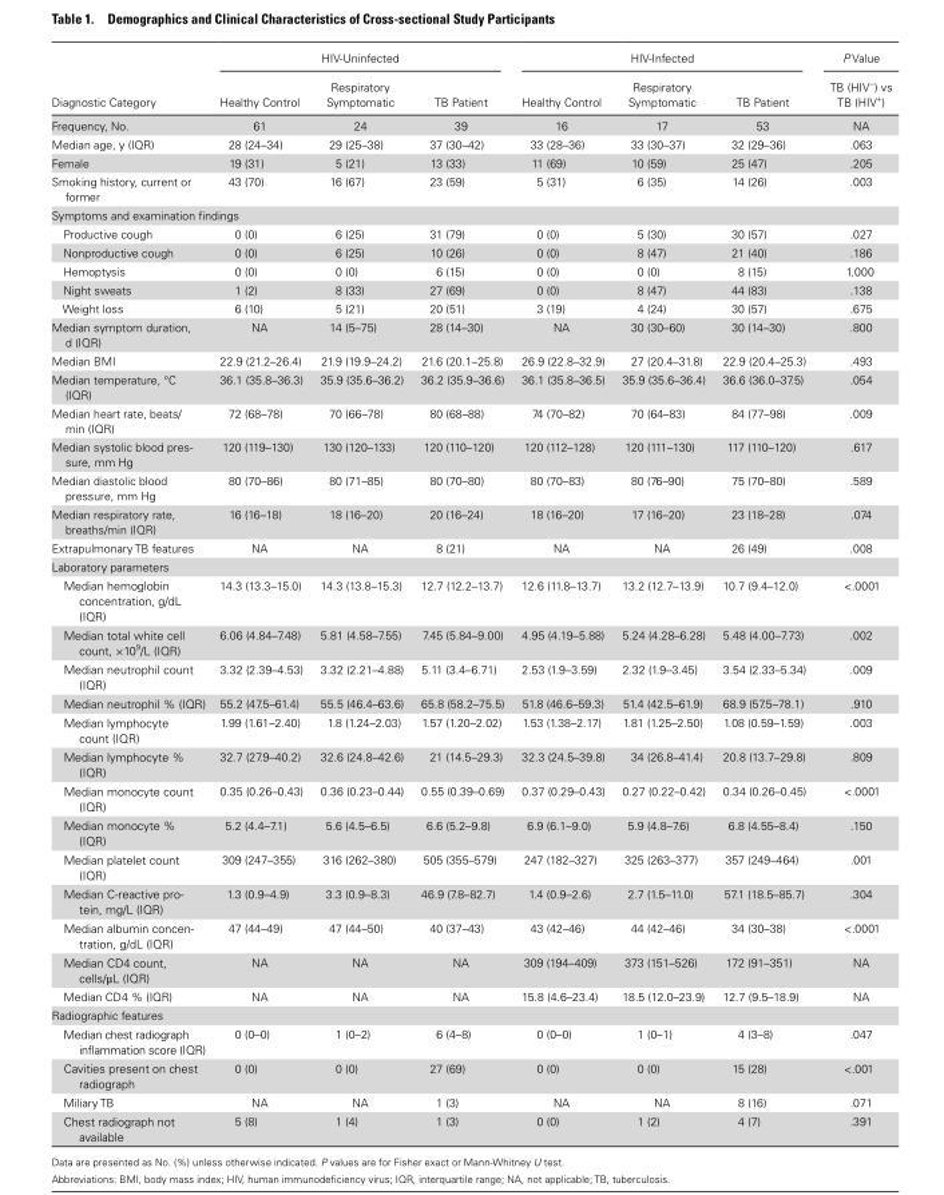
<table><thead><tr><td rowspan="2">Diagnostic Category</td><td colspan="3">HIV-Uninfected</td><td colspan="3">HIV-Infected</td><td rowspan="2">P Value TB (HIV<sup>−</sup>) vs TB (HIV<sup>+</sup>)</td></tr><tr><td>Healthy Control</td><td>Respiratory Symptomatic</td><td>TB Patient</td><td>Healthy Control</td><td>Respiratory Symptomatic</td><td>TB Patient</td></tr></thead><tbody><tr><td>Frequency, No.</td><td>61</td><td>24</td><td>39</td><td>16</td><td>17</td><td>53</td><td>NA</td></tr><tr><td>Median age, y (IQR)</td><td>28 (24–34)</td><td>29 (25–38)</td><td>37 (30–42)</td><td>33 (28–36)</td><td>33 (30–37)</td><td>32 (29–36)</td><td>.063</td></tr><tr><td>Female</td><td>19 (31)</td><td>5 (21)</td><td>13 (33)</td><td>11 (69)</td><td>10 (59)</td><td>25 (47)</td><td>.205</td></tr><tr><td>Smoking history, current or former</td><td>43 (70)</td><td>16 (67)</td><td>23 (59)</td><td>5 (31)</td><td>6 (35)</td><td>14 (26)</td><td>.003</td></tr><tr><td colspan="8">Symptoms and examination findings</td></tr><tr><td>Productive cough</td><td>0 (0)</td><td>6 (25)</td><td>31 (79)</td><td>0 (0)</td><td>5 (30)</td><td>30 (57)</td><td>.027</td></tr><tr><td>Nonproductive cough</td><td>0 (0)</td><td>6 (25)</td><td>10 (26)</td><td>0 (0)</td><td>8 (47)</td><td>21 (40)</td><td>.186</td></tr><tr><td>Hemoptysis</td><td>0 (0)</td><td>0 (0)</td><td>6 (15)</td><td>0 (0)</td><td>0 (0)</td><td>8 (15)</td><td>1.000</td></tr><tr><td>Night sweats</td><td>1 (2)</td><td>8 (33)</td><td>27 (69)</td><td>0 (0)</td><td>8 (47)</td><td>44 (83)</td><td>.138</td></tr><tr><td>Weight loss</td><td>6 (10)</td><td>5 (21)</td><td>20 (51)</td><td>3 (19)</td><td>4 (24)</td><td>30 (57)</td><td>.675</td></tr><tr><td>Median symptom duration, d (IQR)</td><td>NA</td><td>14 (5–75)</td><td>28 (14–30)</td><td>NA</td><td>30 (30–60)</td><td>30 (14–30)</td><td>.800</td></tr><tr><td>Median BMI</td><td>22.9 (21.2–26.4)</td><td>21.9 (19.9–24.2)</td><td>21.6 (20.1–25.8)</td><td>26.9 (22.8–32.9)</td><td>27 (20.4–31.8)</td><td>22.9 (20.4–25.3)</td><td>.493</td></tr><tr><td>Median temperature, °C (IQR)</td><td>36.1 (35.8–36.3)</td><td>35.9 (35.6–36.2)</td><td>36.2 (35.9–36.6)</td><td>36.1 (35.8–36.5)</td><td>35.9 (35.6–36.4)</td><td>36.6 (36.0–37.5)</td><td>.054</td></tr><tr><td>Median heart rate, beats/ min (IQR)</td><td>72 (68–78)</td><td>70 (66–78)</td><td>80 (68–88)</td><td>74 (70–82)</td><td>70 (64–83)</td><td>84 (77–98)</td><td>.009</td></tr><tr><td>Median systolic blood pres- sure, mm Hg</td><td>120 (119–130)</td><td>130 (120–133)</td><td>120 (110–120)</td><td>120 (112–128)</td><td>120 (111–130)</td><td>117 (110–120)</td><td>.617</td></tr><tr><td>Median diastolic blood pressure, mm Hg</td><td>80 (70–86)</td><td>80 (71–85)</td><td>80 (70–80)</td><td>80 (70–83)</td><td>80 (76–90)</td><td>75 (70–80)</td><td>.589</td></tr><tr><td>Median respiratory rate, breaths/min (IQR)</td><td>16 (16–18)</td><td>18 (16–20)</td><td>20 (16–24)</td><td>18 (16–20)</td><td>17 (16–20)</td><td>23 (18–28)</td><td>.074</td></tr><tr><td>Extrapulmonary TB features</td><td>NA</td><td>NA</td><td>8 (21)</td><td>NA</td><td>NA</td><td>26 (49)</td><td>.008</td></tr><tr><td colspan="8">Laboratory parameters</td></tr><tr><td>Median hemoglobin concentration, g/dL (IQR)</td><td>14.3 (13.3–15.0)</td><td>14.3 (13.8–15.3)</td><td>12.7 (12.2–13.7)</td><td>12.6 (11.8–13.7)</td><td>13.2 (12.7–13.9)</td><td>10.7 (9.4–12.0)</td><td>&lt;.0001</td></tr><tr><td>Median total white cell count, ×10<sup>9</sup>/L (IQR)</td><td>6.06 (4.84–7.48)</td><td>5.81 (4.58–7.55)</td><td>7.45 (5.84–9.00)</td><td>4.95 (4.19–5.88)</td><td>5.24 (4.28–6.28)</td><td>5.48 (4.00–7.73)</td><td>.002</td></tr><tr><td>Median neutrophil count (IQR)</td><td>3.32 (2.39–4.53)</td><td>3.32 (2.21–4.88)</td><td>5.11 (3.4–6.71)</td><td>2.53 (1.9–3.59)</td><td>2.32 (1.9–3.45)</td><td>3.54 (2.33–5.34)</td><td>.009</td></tr><tr><td>Median neutrophil % (IQR)</td><td>55.2 (47.5–61.4)</td><td>55.5 (46.4–63.6)</td><td>65.8 (58.2–75.5)</td><td>51.8 (46.6–59.3)</td><td>51.4 (42.5–61.9)</td><td>68.9 (57.5–78.1)</td><td>.910</td></tr><tr><td>Median lymphocyte count (IQR)</td><td>1.99 (1.61–2.40)</td><td>1.8 (1.24–2.03)</td><td>1.57 (1.20–2.02)</td><td>1.53 (1.38–2.17)</td><td>1.81 (1.25–2.50)</td><td>1.08 (0.59–1.59)</td><td>.003</td></tr><tr><td>Median lymphocyte % (IQR)</td><td>32.7 (27.9–40.2)</td><td>32.6 (24.8–42.6)</td><td>21 (14.5–29.3)</td><td>32.3 (24.5–39.8)</td><td>34 (26.8–41.4)</td><td>20.8 (13.7–29.8)</td><td>.809</td></tr><tr><td>Median monocyte count (IQR)</td><td>0.35 (0.26–0.43)</td><td>0.36 (0.23–0.44)</td><td>0.55 (0.39–0.69)</td><td>0.37 (0.29–0.43)</td><td>0.27 (0.22–0.42)</td><td>0.34 (0.26–0.45)</td><td>&lt;.0001</td></tr><tr><td>Median monocyte % (IQR)</td><td>5.2 (4.4–7.1)</td><td>5.6 (4.5–6.5)</td><td>6.6 (5.2–9.8)</td><td>6.9 (6.1–9.0)</td><td>5.9 (4.8–7.6)</td><td>6.8 (4.55–8.4)</td><td>.150</td></tr><tr><td>Median platelet count (IQR)</td><td>309 (247–355)</td><td>316 (262–380)</td><td>505 (355–579)</td><td>247 (182–327)</td><td>325 (263–377)</td><td>357 (249–464)</td><td>.001</td></tr><tr><td>Median C-reactive pro- tein, mg/L (IQR)</td><td>1.3 (0.9–4.9)</td><td>3.3 (0.9–8.3)</td><td>46.9 (7.8–82.7)</td><td>1.4 (0.9–2.6)</td><td>2.7 (1.5–11.0)</td><td>57.1 (18.5–85.7)</td><td>.304</td></tr><tr><td>Median albumin concen- tration, g/dL (IQR)</td><td>47 (44–49)</td><td>47 (44–50)</td><td>40 (37–43)</td><td>43 (42–46)</td><td>44 (42–46)</td><td>34 (30–38)</td><td>&lt;.0001</td></tr><tr><td>Median CD4 count, cells/µL (IQR)</td><td>NA</td><td>NA</td><td>NA</td><td>309 (194–409)</td><td>373 (151–526)</td><td>172 (91–351)</td><td>NA</td></tr><tr><td>Median CD4 % (IQR)</td><td>NA</td><td>NA</td><td>NA</td><td>15.8 (4.6–23.4)</td><td>18.5 (12.0–23.9)</td><td>12.7 (9.5–18.9)</td><td>NA</td></tr><tr><td colspan="8">Radiographic features</td></tr><tr><td>Median chest radiograph inflammation score (IQR)</td><td>0 (0–0)</td><td>1 (0–2)</td><td>6 (4–8)</td><td>0 (0–0)</td><td>1 (0–1)</td><td>4 (3–8)</td><td>.047</td></tr><tr><td>Cavities present on chest radiograph</td><td>0 (0)</td><td>0 (0)</td><td>27 (69)</td><td>0 (0)</td><td>0 (0)</td><td>15 (28)</td><td>&lt;.001</td></tr><tr><td>Miliary TB</td><td>NA</td><td>NA</td><td>1 (3)</td><td>NA</td><td>NA</td><td>8 (16)</td><td>.071</td></tr><tr><td>Chest radiograph not available</td><td>5 (8)</td><td>1 (4)</td><td>1 (3)</td><td>0 (0)</td><td>1 (2)</td><td>4 (7)</td><td>.391</td></tr></tbody></table>